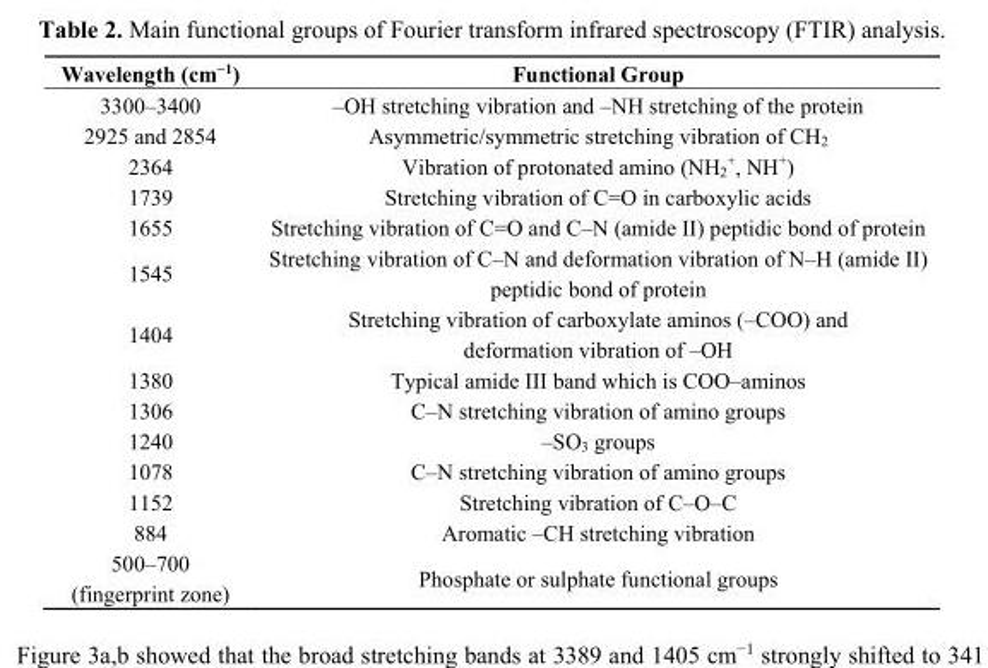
<table><thead><tr><td>Wavelength (cm<sup>−1</sup>)</td><td>Functional Group</td></tr></thead><tbody><tr><td>3300–3400</td><td>–OH stretching vibration and –NH stretching of the protein</td></tr><tr><td>2925 and 2854</td><td>Asymmetric/symmetric stretching vibration of CH<sub>2</sub></td></tr><tr><td>2364</td><td>Vibration of protonated amino (NH<sub>2</sub><sup>+</sup>, NH<sup>+</sup>)</td></tr><tr><td>1739</td><td>Stretching vibration of C=O in carboxylic acids</td></tr><tr><td>1655</td><td>Stretching vibration of C=O and C–N (amide II) peptidic bond of protein</td></tr><tr><td>1545</td><td>Stretching vibration of C–N and deformation vibration of N–H (amide II) peptidic bond of protein</td></tr><tr><td>1404</td><td>Stretching vibration of carboxylate aminos (–COO) and deformation vibration of –OH</td></tr><tr><td>1380</td><td>Typical amide III band which is COO–aminos</td></tr><tr><td>1306</td><td>C–N stretching vibration of amino groups</td></tr><tr><td>1240</td><td>–SO<sub>3</sub> groups</td></tr><tr><td>1078</td><td>C–N stretching vibration of amino groups</td></tr><tr><td>1152</td><td>Stretching vibration of C–O–C</td></tr><tr><td>884</td><td>Aromatic –CH stretching vibration</td></tr><tr><td>500–700 (fingerprint zone)</td><td>Phosphate or sulphate functional groups</td></tr></tbody></table>